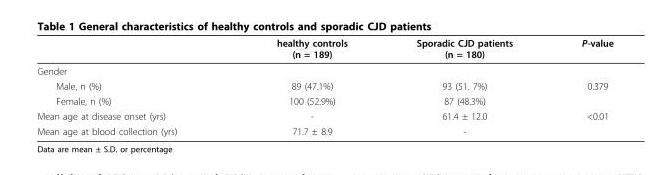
<table><thead><tr><td></td><td>healthy controls (n = 189)</td><td>Sporadic CJD patients (n = 180)</td><td>P-value</td></tr></thead><tbody><tr><td colspan="4">Gender</td></tr><tr><td>Male, n (%)</td><td>89 (47.1%)</td><td>93 (51. 7%)</td><td>0.379</td></tr><tr><td>Female, n (%)</td><td>100 (52.9%)</td><td>87 (48.3%)</td><td></td></tr><tr><td>Mean age at disease onset (yrs)</td><td>-</td><td>61.4 ± 12.0</td><td>&lt;0.01</td></tr><tr><td>Mean age at blood collection (yrs)</td><td>71.7 ± 8.9</td><td>-</td><td></td></tr></tbody></table>